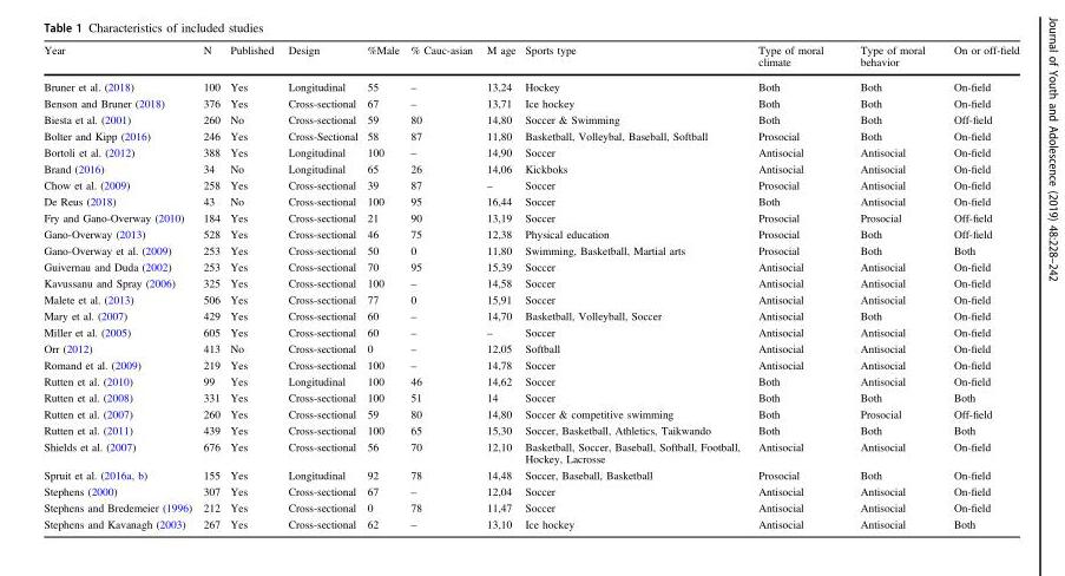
<table><thead><tr><td>Year</td><td>N</td><td>Published</td><td>Design</td><td>%Male</td><td>% Cauc-asian</td><td>M age</td><td>Sports type</td><td>Type of moral climate</td><td>Type of moral behavior</td><td>On or off-field</td></tr></thead><tbody><tr><td>Bruner et al. (2018)</td><td>100</td><td>Yes</td><td>Longitudinal</td><td>55</td><td>–</td><td>13,24</td><td>Hockey</td><td>Both</td><td>Both</td><td>On-field</td></tr><tr><td>Benson and Bruner (2018)</td><td>376</td><td>Yes</td><td>Cross-sectional</td><td>67</td><td>–</td><td>13,71</td><td>Ice hockey</td><td>Both</td><td>Both</td><td>On-field</td></tr><tr><td>Biesta et al. (2001)</td><td>260</td><td>No</td><td>Cross-sectional</td><td>59</td><td>80</td><td>14,80</td><td>Soccer &amp; Swimming</td><td>Both</td><td>Both</td><td>Off-field</td></tr><tr><td>Bolter and Kipp (2016)</td><td>246</td><td>Yes</td><td>Cross-Sectional</td><td>58</td><td>87</td><td>11,80</td><td>Basketball, Volleybal, Baseball, Softball</td><td>Prosocial</td><td>Both</td><td>On-field</td></tr><tr><td>Bortoli et al. (2012)</td><td>388</td><td>Yes</td><td>Longitudinal</td><td>100</td><td>–</td><td>14,90</td><td>Soccer</td><td>Antisocial</td><td>Antisocial</td><td>On-field</td></tr><tr><td>Brand (2016)</td><td>34</td><td>No</td><td>Longitudinal</td><td>65</td><td>26</td><td>14,06</td><td>Kickboks</td><td>Antisocial</td><td>Antisocial</td><td>On-field</td></tr><tr><td>Chow et al. (2009)</td><td>258</td><td>Yes</td><td>Cross-sectional</td><td>39</td><td>87</td><td>–</td><td>Soccer</td><td>Prosocial</td><td>Antisocial</td><td>On-field</td></tr><tr><td>De Reus (2018)</td><td>43</td><td>No</td><td>Cross-sectional</td><td>100</td><td>95</td><td>16,44</td><td>Soccer</td><td>Both</td><td>Antisocial</td><td>On-field</td></tr><tr><td>Fry and Gano-Overway (2010)</td><td>184</td><td>Yes</td><td>Cross-sectional</td><td>21</td><td>90</td><td>13,19</td><td>Soccer</td><td>Prosocial</td><td>Prosocial</td><td>Off-field</td></tr><tr><td>Gano-Overway (2013)</td><td>528</td><td>Yes</td><td>Cross-sectional</td><td>46</td><td>75</td><td>12,38</td><td>Physical education</td><td>Prosocial</td><td>Both</td><td>Off-field</td></tr><tr><td>Gano-Overway et al. (2009)</td><td>253</td><td>Yes</td><td>Cross-sectional</td><td>50</td><td>0</td><td>11,80</td><td>Swimming, Basketball, Martial arts</td><td>Prosocial</td><td>Both</td><td>Both</td></tr><tr><td>Guivernau and Duda (2002)</td><td>253</td><td>Yes</td><td>Cross-sectional</td><td>70</td><td>95</td><td>15,39</td><td>Soccer</td><td>Antisocial</td><td>Antisocial</td><td>On-field</td></tr><tr><td>Kavussanu and Spray (2006)</td><td>325</td><td>Yes</td><td>Cross-sectional</td><td>100</td><td>–</td><td>14,58</td><td>Soccer</td><td>Antisocial</td><td>Antisocial</td><td>On-field</td></tr><tr><td>Malete et al. (2013)</td><td>506</td><td>Yes</td><td>Cross-sectional</td><td>77</td><td>0</td><td>15,91</td><td>Soccer</td><td>Antisocial</td><td>Antisocial</td><td>On-field</td></tr><tr><td>Mary et al. (2007)</td><td>429</td><td>Yes</td><td>Cross-sectional</td><td>60</td><td>–</td><td>14,70</td><td>Basketball, Volleyball, Soccer</td><td>Antisocial</td><td>Both</td><td>On-field</td></tr><tr><td>Miller et al. (2005)</td><td>605</td><td>Yes</td><td>Cross-sectional</td><td>60</td><td>–</td><td>–</td><td>Soccer</td><td>Antisocial</td><td>Antisocial</td><td>On-field</td></tr><tr><td>Orr (2012)</td><td>413</td><td>No</td><td>Cross-sectional</td><td>0</td><td>–</td><td>12,05</td><td>Softball</td><td>Antisocial</td><td>Antisocial</td><td>On-field</td></tr><tr><td>Romand et al. (2009)</td><td>219</td><td>Yes</td><td>Cross-sectional</td><td>100</td><td>–</td><td>14,78</td><td>Soccer</td><td>Antisocial</td><td>Antisocial</td><td>On-field</td></tr><tr><td>Rutten et al. (2010)</td><td>99</td><td>Yes</td><td>Longitudinal</td><td>100</td><td>46</td><td>14,62</td><td>Soccer</td><td>Both</td><td>Antisocial</td><td>On-field</td></tr><tr><td>Rutten et al. (2008)</td><td>331</td><td>Yes</td><td>Cross-sectional</td><td>100</td><td>51</td><td>14</td><td>Soccer</td><td>Both</td><td>Both</td><td>Both</td></tr><tr><td>Rutten et al. (2007)</td><td>260</td><td>Yes</td><td>Cross-sectional</td><td>59</td><td>80</td><td>14,80</td><td>Soccer &amp; competitive swimming</td><td>Both</td><td>Prosocial</td><td>Off-field</td></tr><tr><td>Rutten et al. (2011)</td><td>439</td><td>Yes</td><td>Cross-sectional</td><td>100</td><td>65</td><td>15,30</td><td>Soccer, Basketball, Athletics, Taikwando</td><td>Both</td><td>Both</td><td>Both</td></tr><tr><td>Shields et al. (2007)</td><td>676</td><td>Yes</td><td>Cross-sectional</td><td>56</td><td>70</td><td>12,10</td><td>Basketball, Soccer, Baseball, Softball, Football, Hockey, Lacrosse</td><td>Antisocial</td><td>Antisocial</td><td>On-field</td></tr><tr><td>Spruit et al. (2016a, b)</td><td>155</td><td>Yes</td><td>Longitudinal</td><td>92</td><td>78</td><td>14,48</td><td>Soccer, Baseball, Basketball</td><td>Prosocial</td><td>Both</td><td>On-field</td></tr><tr><td>Stephens (2000)</td><td>307</td><td>Yes</td><td>Cross-sectional</td><td>67</td><td>–</td><td>12,04</td><td>Soccer</td><td>Antisocial</td><td>Antisocial</td><td>On-field</td></tr><tr><td>Stephens and Bredemeier (1996)</td><td>212</td><td>Yes</td><td>Cross-sectional</td><td>0</td><td>78</td><td>11,47</td><td>Soccer</td><td>Antisocial</td><td>Antisocial</td><td>On-field</td></tr><tr><td>Stephens and Kavanagh (2003)</td><td>267</td><td>Yes</td><td>Cross-sectional</td><td>62</td><td>–</td><td>13,10</td><td>Ice hockey</td><td>Antisocial</td><td>Antisocial</td><td>Both</td></tr></tbody></table>